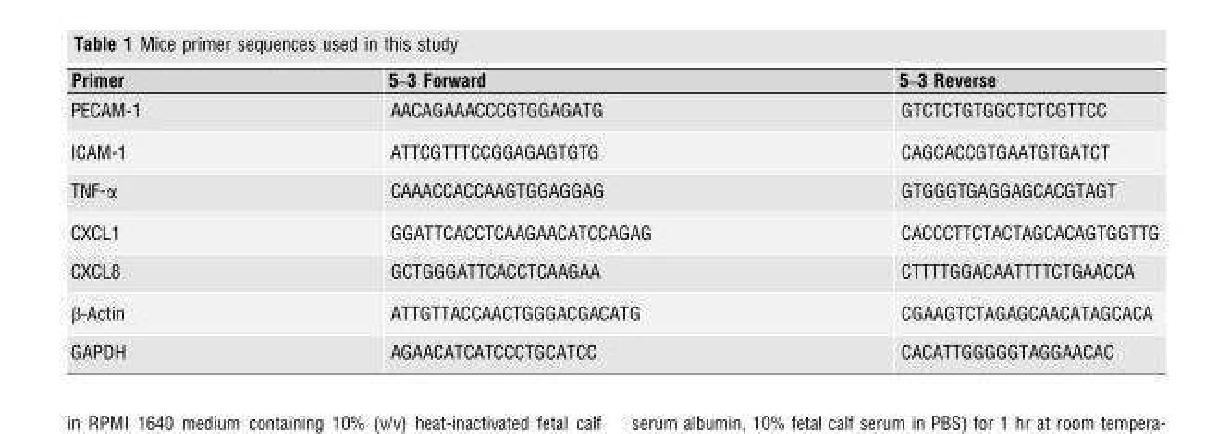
<table><thead><tr><td>Primer</td><td>5–3 Forward</td><td>5–3 Reverse</td></tr></thead><tbody><tr><td>PECAM-1</td><td>AACAGAAACCCGTGGAGATG</td><td>GTCTCTGTGGCTCTCGTTCC</td></tr><tr><td>ICAM-1</td><td>ATTCGTTTCCGGAGAGTGTG</td><td>CAGCACCGTGAATGTGATCT</td></tr><tr><td>TNF-α</td><td>CAAACCACCAAGTGGAGGAG</td><td>GTGGGTGAGGAGCACGTAGT</td></tr><tr><td>CXCL1</td><td>GGATTCACCTCAAGAACATCCAGAG</td><td>CACCCTTCTACTAGCACAGTGGTTG</td></tr><tr><td>CXCL8</td><td>GCTGGGATTCACCTCAAGAA</td><td>CTTTTGGACAATTTTCTGAACCA</td></tr><tr><td>β-Actin</td><td>ATTGTTACCAACTGGGACGACATG</td><td>CGAAGTCTAGAGCAACATAGCACA</td></tr><tr><td>GAPDH</td><td>AGAACATCATCCCTGCATCC</td><td>CACATTGGGGGTAGGAACAC</td></tr></tbody></table>